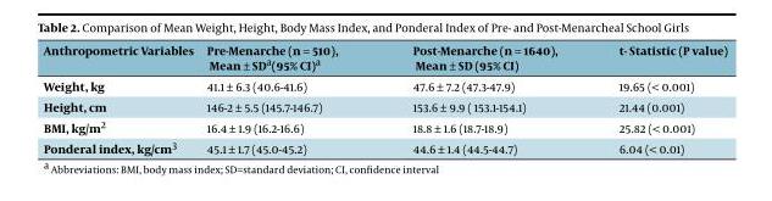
<table><thead><tr><td>Anthropometric Variables</td><td>Pre-Menarche (n = 510), Mean ± SDa(95% CI)a</td><td>Post-Menarche (n = 1640), Mean ± SD (95% CI)</td><td>t- Statistic (P value)</td></tr></thead><tbody><tr><td>Weight, kg</td><td>41.1 ± 6.3 (40.6-41.6)</td><td>47.6 ± 7.2 (47.3-47.9)</td><td>19.65 (&lt; 0.001)</td></tr><tr><td>Height, cm</td><td>146-2 ± 5.5 (145.7-146.7)</td><td>153.6 ± 9.9 ( 153.1-154.1)</td><td>21.44 (0.001)</td></tr><tr><td>BMI, kg/m<sup>2</sup></td><td>16.4 ± 1.9 (16.2-16.6)</td><td>18.8 ± 1.6 (18.7-18.9)</td><td>25.82 (&lt; 0.001)</td></tr><tr><td>Ponderal index, kg/cm<sup>3</sup></td><td>45.1 ± 1.7 (45.0-45.2)</td><td>44.6 ± 1.4 (44.5-44.7)</td><td>6.04 (&lt; 0.01)</td></tr></tbody></table>